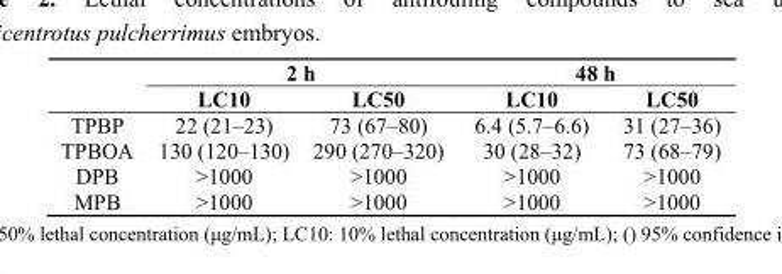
<table><thead><tr><td rowspan="2"></td><td colspan="2">2 h</td><td colspan="2">48 h</td></tr><tr><td>LC10</td><td>LC50</td><td>LC10</td><td>LC50</td></tr></thead><tbody><tr><td>TPBP</td><td>22 (21–23)</td><td>73 (67–80)</td><td>6.4 (5.7–6.6)</td><td>31 (27–36)</td></tr><tr><td>TPBOA</td><td>130 (120–130)</td><td>290 (270–320)</td><td>30 (28–32)</td><td>73 (68–79)</td></tr><tr><td>DPB</td><td>&gt;1000</td><td>&gt;1000</td><td>&gt;1000</td><td>&gt;1000</td></tr><tr><td>MPB</td><td>&gt;1000</td><td>&gt;1000</td><td>&gt;1000</td><td>&gt;1000</td></tr></tbody></table>